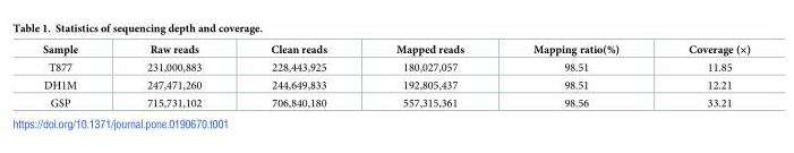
<table><thead><tr><td>Sample</td><td>Raw reads</td><td>Clean reads</td><td>Mapped reads</td><td>Mapping ratio(%)</td><td>Coverage (×)</td></tr></thead><tbody><tr><td>T877</td><td>231,000,883</td><td>228,443,925</td><td>180,027,057</td><td>98.51</td><td>11.85</td></tr><tr><td>DH1M</td><td>247,471,260</td><td>244,649,833</td><td>192,805,437</td><td>98.51</td><td>12.21</td></tr><tr><td>GSP</td><td>715,731,102</td><td>706,840,180</td><td>557,315,361</td><td>98.56</td><td>33.21</td></tr></tbody></table>